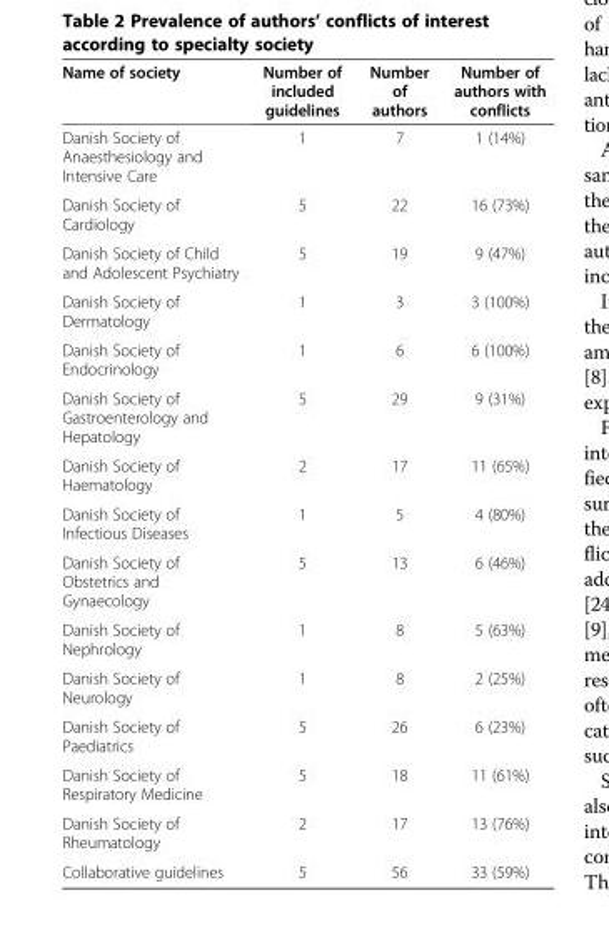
<table><thead><tr><td>Name of society</td><td>Number of included guidelines</td><td>Number of authors</td><td>Number of authors with conflicts</td></tr></thead><tbody><tr><td>Danish Society of Anaesthesiology and Intensive Care</td><td>1</td><td>7</td><td>1 (14%)</td></tr><tr><td>Danish Society of Cardiology</td><td>5</td><td>22</td><td>16 (73%)</td></tr><tr><td>Danish Society of Child and Adolescent Psychiatry</td><td>5</td><td>19</td><td>9 (47%)</td></tr><tr><td>Danish Society of Dermatology</td><td>1</td><td>3</td><td>3 (100%)</td></tr><tr><td>Danish Society of Endocrinology</td><td>1</td><td>6</td><td>6 (100%)</td></tr><tr><td>Danish Society of Gastroenterology and Hepatology</td><td>5</td><td>29</td><td>9 (31%)</td></tr><tr><td>Danish Society of Haematology</td><td>2</td><td>17</td><td>11 (65%)</td></tr><tr><td>Danish Society of Infectious Diseases</td><td>1</td><td>5</td><td>4 (80%)</td></tr><tr><td>Danish Society of Obstetrics and Gynaecology</td><td>5</td><td>13</td><td>6 (46%)</td></tr><tr><td>Danish Society of Nephrology</td><td>1</td><td>8</td><td>5 (63%)</td></tr><tr><td>Danish Society of Neurology</td><td>1</td><td>8</td><td>2 (25%)</td></tr><tr><td>Danish Society of Paediatrics</td><td>5</td><td>26</td><td>6 (23%)</td></tr><tr><td>Danish Society of Respiratory Medicine</td><td>5</td><td>18</td><td>11 (61%)</td></tr><tr><td>Danish Society of Rheumatology</td><td>2</td><td>17</td><td>13 (76%)</td></tr><tr><td>Collaborative guidelines</td><td>5</td><td>56</td><td>33 (59%)</td></tr></tbody></table>